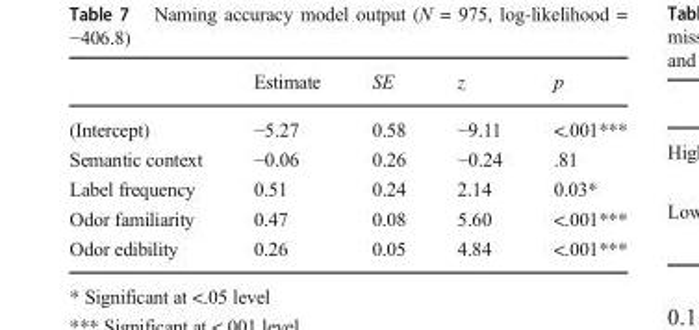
<table><thead><tr><td></td><td>Estimate</td><td>SE</td><td>z</td><td>p</td></tr></thead><tbody><tr><td>(Intercept)</td><td>−5.27</td><td>0.58</td><td>−9.11</td><td>&lt;.001***</td></tr><tr><td>Semantic context</td><td>−0.06</td><td>0.26</td><td>−0.24</td><td>.81</td></tr><tr><td>Label frequency</td><td>0.51</td><td>0.24</td><td>2.14</td><td>0.03*</td></tr><tr><td>Odor familiarity</td><td>0.47</td><td>0.08</td><td>5.60</td><td>&lt;.001***</td></tr><tr><td>Odor edibility</td><td>0.26</td><td>0.05</td><td>4.84</td><td>&lt;.001***</td></tr></tbody></table>